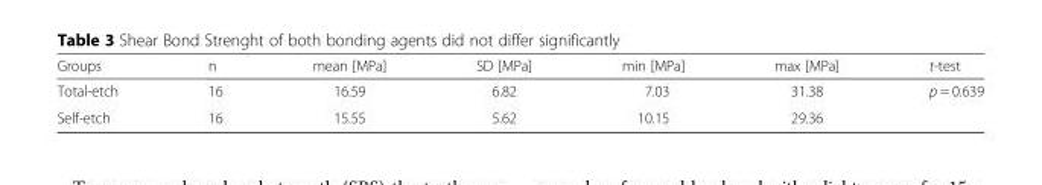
<table><thead><tr><td>Groups</td><td>n</td><td>mean [MPa]</td><td>SD [MPa]</td><td>min [MPa]</td><td>max [MPa]</td><td>t-test</td></tr></thead><tbody><tr><td>Total-etch</td><td>16</td><td>16.59</td><td>6.82</td><td>7.03</td><td>31.38</td><td rowspan="2">p = 0.639</td></tr><tr><td>Self-etch</td><td>16</td><td>15.55</td><td>5.62</td><td>10.15</td><td>29.36</td></tr></tbody></table>